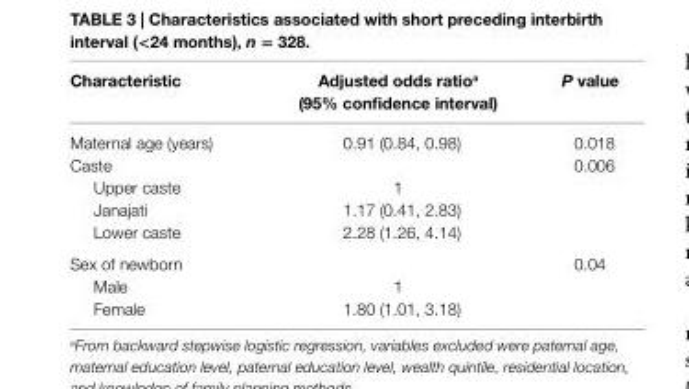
<table><thead><tr><td>characteristic</td><td>adjusted odds ratio<sup>a</sup> (95% confidence interval)</td><td>P value</td></tr></thead><tbody><tr><td>Maternal age (years)</td><td>0.91 (0.84, 0.98)</td><td>0.018</td></tr><tr><td>Caste</td><td></td><td>0.006</td></tr><tr><td>Upper caste</td><td>1</td><td></td></tr><tr><td>Janajati</td><td>1.17 (0.41, 2.83)</td><td></td></tr><tr><td>Lower caste</td><td>2.28 (1.26, 4.14)</td><td></td></tr><tr><td>Sex of newborn</td><td></td><td>0.04</td></tr><tr><td>Male</td><td>1</td><td></td></tr><tr><td>Female</td><td>1.80 (1.01, 3.18)</td><td></td></tr></tbody></table>